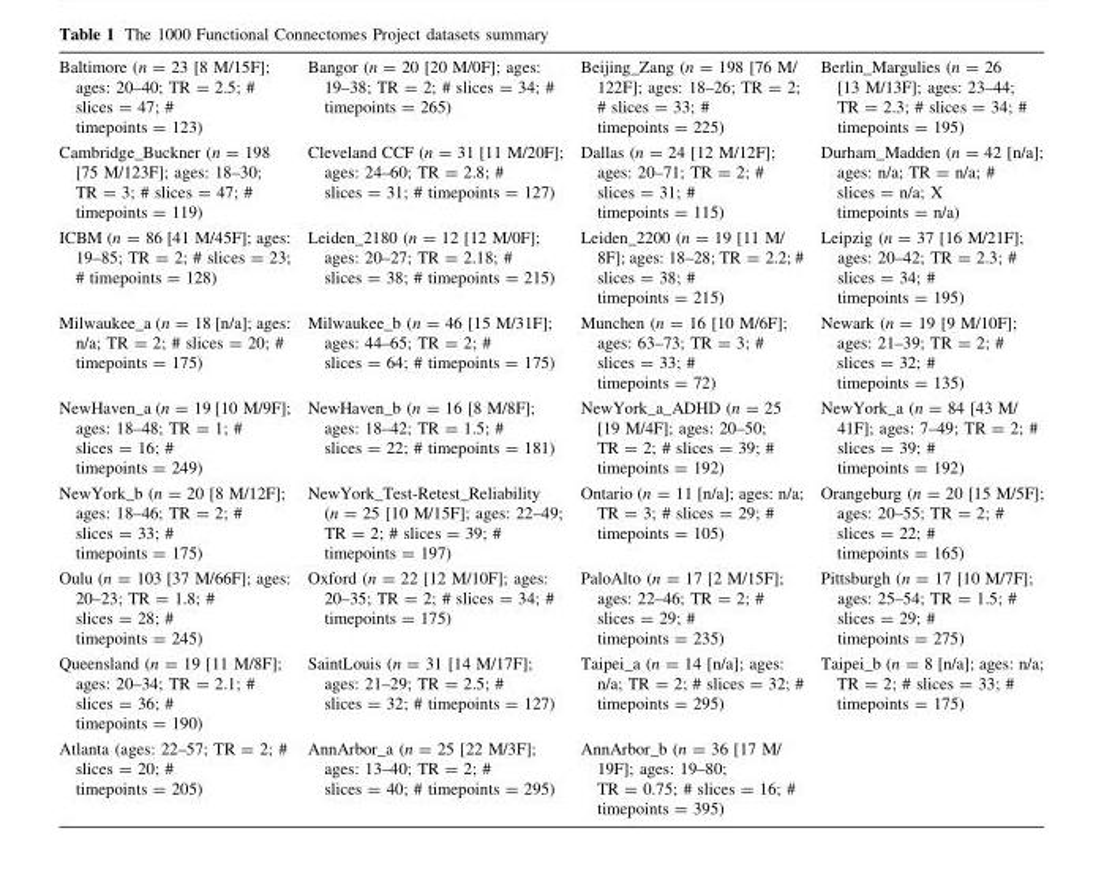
<table><tbody><tr><td>Baltimore (n = 23 [8 M/15F]; ages: 20–40; TR = 2.5; # slices = 47; # timepoints = 123)</td><td>Bangor (n = 20 [20 M/0F]; ages: 19–38; TR = 2; # slices = 34; # timepoints = 265)</td><td>Beijing_Zang (n = 198 [76 M/ 122F]; ages: 18–26; TR = 2; # slices = 33; # timepoints = 225)</td><td>Berlin_Margulies (n = 26 [13 M/13F]; ages: 23–44; TR = 2.3; # slices = 34; # timepoints = 195)</td></tr><tr><td>Cambridge_Buckner (n = 198 [75 M/123F]; ages: 18–30; TR = 3; # slices = 47; # timepoints = 119)</td><td>Cleveland CCF (n = 31 [11 M/20F]; ages: 24–60; TR = 2.8; # slices = 31; # timepoints = 127)</td><td>Dallas (n = 24 [12 M/12F]; ages: 20–71; TR = 2; # slices = 31; # timepoints = 115)</td><td>Durham_Madden (n = 42 [n/a]; ages: n/a; TR = n/a; # slices = n/a; X timepoints = n/a)</td></tr><tr><td>ICBM (n = 86 [41 M/45F]; ages: 19–85; TR = 2; # slices = 23; # timepoints = 128)</td><td>Leiden_2180 (n = 12 [12 M/0F]; ages: 20–27; TR = 2.18; # slices = 38; # timepoints = 215)</td><td>Leiden_2200 (n = 19 [11 M/ 8F]; ages: 18–28; TR = 2.2; # slices = 38; # timepoints = 215)</td><td>Leipzig (n = 37 [16 M/21F]; ages: 20–42; TR = 2.3; # slices = 34; # timepoints = 195)</td></tr><tr><td>Milwaukee_a (n = 18 [n/a]; ages: n/a; TR = 2; # slices = 20; # timepoints = 175)</td><td>Milwaukee_b (n = 46 [15 M/31F]; ages: 44–65; TR = 2; # slices = 64; # timepoints = 175)</td><td>Munchen (n = 16 [10 M/6F]; ages: 63–73; TR = 3; # slices = 33; # timepoints = 72)</td><td>Newark (n = 19 [9 M/10F]; ages: 21–39; TR = 2; # slices = 32; # timepoints = 135)</td></tr><tr><td>NewHaven_a (n = 19 [10 M/9F]; ages: 18–48; TR = 1; # slices = 16; # timepoints = 249)</td><td>NewHaven_b (n = 16 [8 M/8F]; ages: 18–42; TR = 1.5; # slices = 22; # timepoints = 181)</td><td>NewYork_a_ADHD (n = 25 [19 M/4F]; ages: 20–50; TR = 2; # slices = 39; # timepoints = 192)</td><td>NewYork_a (n = 84 [43 M/ 41F]; ages: 7–49; TR = 2; # slices = 39; # timepoints = 192)</td></tr><tr><td>NewYork_b (n = 20 [8 M/12F]; ages: 18–46; TR = 2; # slices = 33; # timepoints = 175)</td><td>NewYork_Test-Retest_Reliability (n = 25 [10 M/15F]; ages: 22–49; TR = 2; # slices = 39; # timepoints = 197)</td><td>Ontario (n = 11 [n/a]; ages: n/a; TR = 3; # slices = 29; # timepoints = 105)</td><td>Orangeburg (n = 20 [15 M/5F]; ages: 20–55; TR = 2; # slices = 22; # timepoints = 165)</td></tr><tr><td>Oulu (n = 103 [37 M/66F]; ages: 20–23; TR = 1.8; # slices = 28; # timepoints = 245)</td><td>Oxford (n = 22 [12 M/10F]; ages: 20–35; TR = 2; # slices = 34; # timepoints = 175)</td><td>PaloAlto (n = 17 [2 M/15F]; ages: 22–46; TR = 2; # slices = 29; # timepoints = 235)</td><td>Pittsburgh (n = 17 [10 M/7F]; ages: 25–54; TR = 1.5; # slices = 29; # timepoints = 275)</td></tr><tr><td>Queensland (n = 19 [11 M/8F]; ages: 20–34; TR = 2.1; # slices = 36; # timepoints = 190)</td><td>SaintLouis (n = 31 [14 M/17F]; ages: 21–29; TR = 2.5; # slices = 32; # timepoints = 127)</td><td>Taipei_a (n = 14 [n/a]; ages: n/a; TR = 2; # slices = 32; # timepoints = 295)</td><td>Taipei_b (n = 8 [n/a]; ages: n/a; TR = 2; # slices = 33; # timepoints = 175)</td></tr><tr><td>Atlanta (ages: 22–57; TR = 2; # slices = 20; # timepoints = 205)</td><td>AnnArbor_a (n = 25 [22 M/3F]; ages: 13–40; TR = 2; # slices = 40; # timepoints = 295)</td><td>AnnArbor_b (n = 36 [17 M/ 19F]; ages: 19–80; TR = 0.75; # slices = 16; # timepoints = 395)</td><td></td></tr></tbody></table>